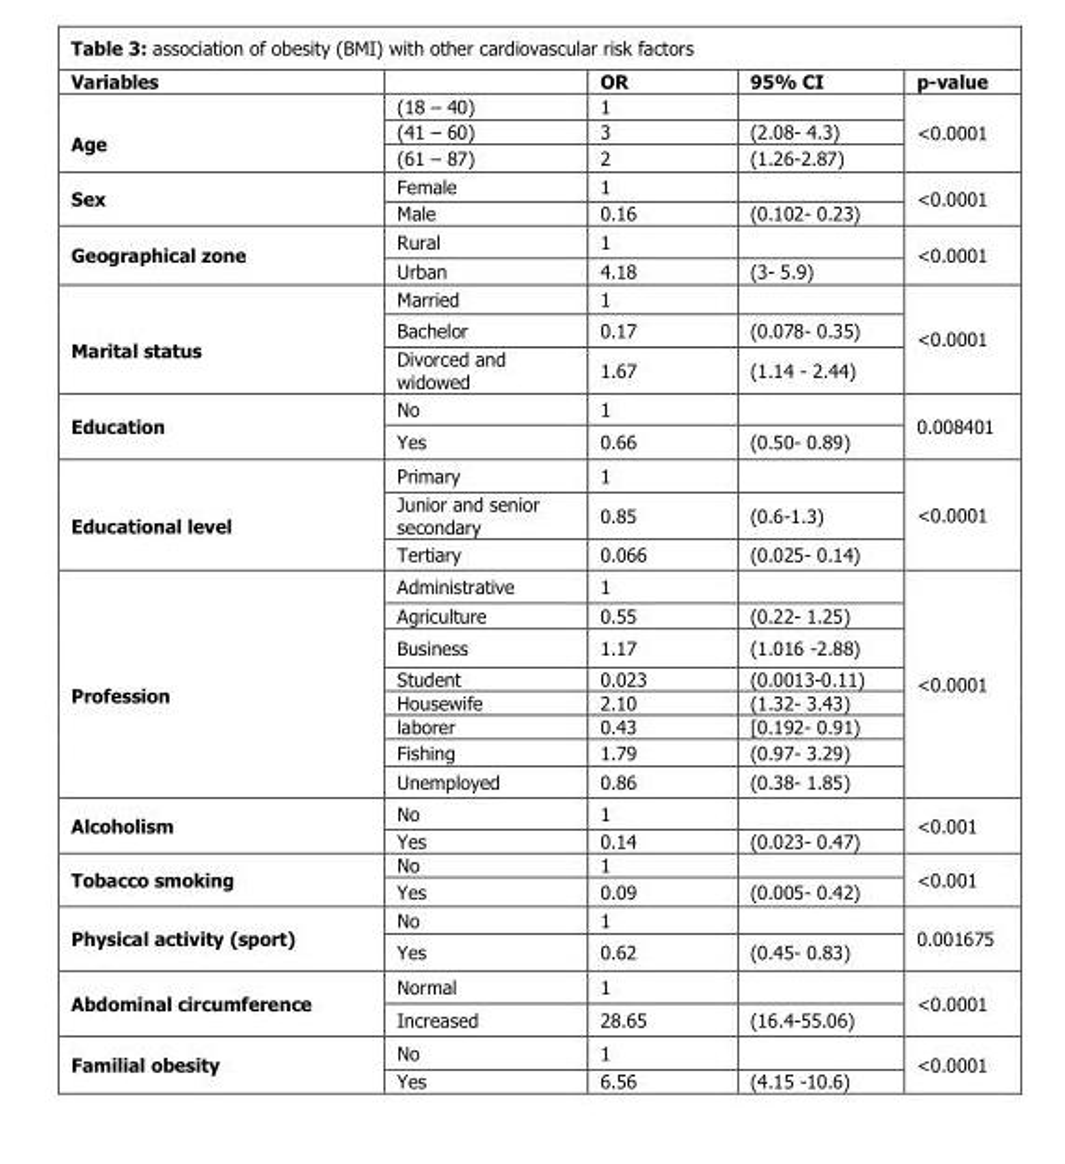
<table><thead><tr><td>Variables</td><td></td><td>OR</td><td>95% CI</td><td>p-value</td></tr></thead><tbody><tr><td rowspan="3">Age</td><td>(18 – 40)</td><td>1</td><td></td><td rowspan="3">&lt;0.0001</td></tr><tr><td>(41 – 60)</td><td>3</td><td>(2.08- 4.3)</td></tr><tr><td>(61 – 87)</td><td>2</td><td>(1.26-2.87)</td></tr><tr><td rowspan="2">Sex</td><td>Female</td><td>1</td><td></td><td rowspan="2">&lt;0.0001</td></tr><tr><td>Male</td><td>0.16</td><td>(0.102- 0.23)</td></tr><tr><td rowspan="2">Geographical zone</td><td>Rural</td><td>1</td><td></td><td rowspan="2">&lt;0.0001</td></tr><tr><td>Urban</td><td>4.18</td><td>(3- 5.9)</td></tr><tr><td rowspan="3">Marital status</td><td>Married</td><td>1</td><td></td><td rowspan="3">&lt;0.0001</td></tr><tr><td>Bachelor</td><td>0.17</td><td>(0.078- 0.35)</td></tr><tr><td>Divorced and widowed</td><td>1.67</td><td>(1.14 - 2.44)</td></tr><tr><td rowspan="2">Education</td><td>No</td><td>1</td><td></td><td rowspan="2">0.008401</td></tr><tr><td>Yes</td><td>0.66</td><td>(0.50- 0.89)</td></tr><tr><td rowspan="3">Educational level</td><td>Primary</td><td>1</td><td></td><td rowspan="3">&lt;0.0001</td></tr><tr><td>Junior and senior secondary</td><td>0.85</td><td>(0.6-1.3)</td></tr><tr><td>Tertiary</td><td>0.066</td><td>(0.025- 0.14)</td></tr><tr><td rowspan="8">Profession</td><td>Administrative</td><td>1</td><td></td><td rowspan="8">&lt;0.0001</td></tr><tr><td>Agriculture</td><td>0.55</td><td>(0.22- 1.25)</td></tr><tr><td>Business</td><td>1.17</td><td>(1.016 -2.88)</td></tr><tr><td>Student</td><td>0.023</td><td>(0.0013-0.11)</td></tr><tr><td>Housewife</td><td>2.10</td><td>(1.32- 3.43)</td></tr><tr><td>laborer</td><td>0.43</td><td>[0.192- 0.91)</td></tr><tr><td>Fishing</td><td>1.79</td><td>(0.97- 3.29)</td></tr><tr><td>Unemployed</td><td>0.86</td><td>(0.38- 1.85)</td></tr><tr><td rowspan="2">Alcoholism</td><td>No</td><td>1</td><td></td><td rowspan="2">&lt;0.001</td></tr><tr><td>Yes</td><td>0.14</td><td>(0.023- 0.47)</td></tr><tr><td rowspan="2">Tobacco smoking</td><td>No</td><td>1</td><td></td><td rowspan="2">&lt;0.001</td></tr><tr><td>Yes</td><td>0.09</td><td>(0.005- 0.42)</td></tr><tr><td rowspan="2">Physical activity (sport)</td><td>No</td><td>1</td><td></td><td rowspan="2">0.001675</td></tr><tr><td>Yes</td><td>0.62</td><td>(0.45- 0.83)</td></tr><tr><td rowspan="2">Abdominal circumference</td><td>Normal</td><td>1</td><td></td><td rowspan="2">&lt;0.0001</td></tr><tr><td>Increased</td><td>28.65</td><td>(16.4-55.06)</td></tr><tr><td rowspan="2">Familial obesity</td><td>No</td><td>1</td><td></td><td rowspan="2">&lt;0.0001</td></tr><tr><td>Yes</td><td>6.56</td><td>(4.15 -10.6)</td></tr></tbody></table>